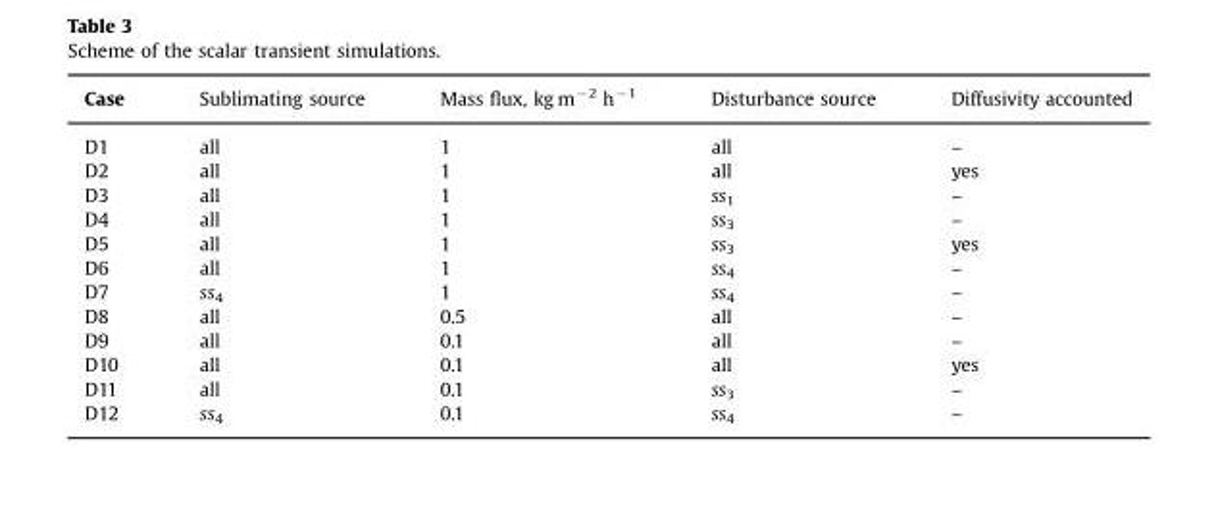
<table><thead><tr><td>Case</td><td>Sublimating source</td><td>Mass flux, kg m<sup>−2</sup> h<sup>−1</sup></td><td>Disturbance source</td><td>Diffusivity accounted</td></tr></thead><tbody><tr><td>D1</td><td>all</td><td>1</td><td>all</td><td>–</td></tr><tr><td>D2</td><td>all</td><td>1</td><td>all</td><td>yes</td></tr><tr><td>D3</td><td>all</td><td>1</td><td>ss<sub>1</sub></td><td>–</td></tr><tr><td>D4</td><td>all</td><td>1</td><td>ss<sub>3</sub></td><td>–</td></tr><tr><td>D5</td><td>all</td><td>1</td><td>ss<sub>3</sub></td><td>yes</td></tr><tr><td>D6</td><td>all</td><td>1</td><td>ss<sub>4</sub></td><td>–</td></tr><tr><td>D7</td><td>ss<sub>4</sub></td><td>1</td><td>ss<sub>4</sub></td><td>–</td></tr><tr><td>D8</td><td>all</td><td>0.5</td><td>all</td><td>–</td></tr><tr><td>D9</td><td>all</td><td>0.1</td><td>all</td><td>–</td></tr><tr><td>D10</td><td>all</td><td>0.1</td><td>all</td><td>yes</td></tr><tr><td>D11</td><td>all</td><td>0.1</td><td>ss<sub>3</sub></td><td>–</td></tr><tr><td>D12</td><td>ss<sub>4</sub></td><td>0.1</td><td>ss<sub>4</sub></td><td>–</td></tr></tbody></table>